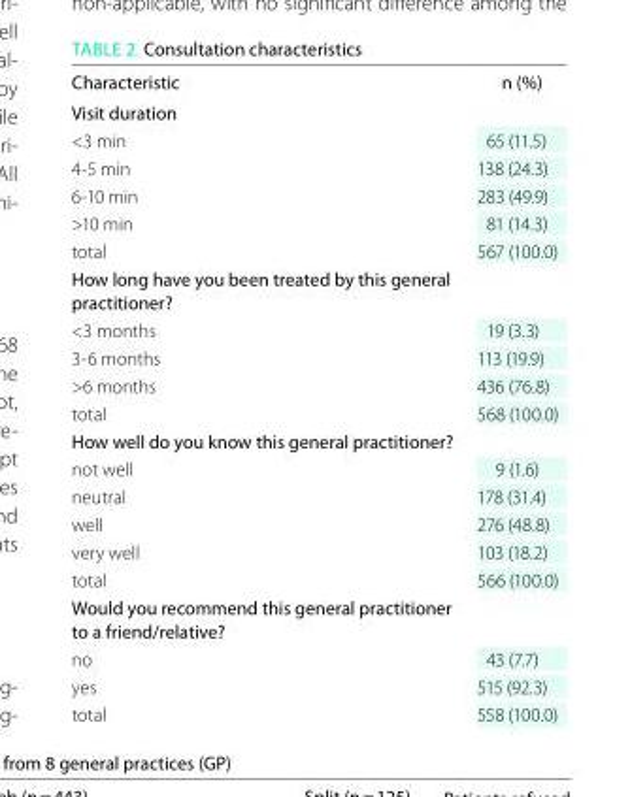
<table><thead><tr><td>Characteristic</td><td>n (%)</td></tr></thead><tbody><tr><td colspan="2">Visit duration</td></tr><tr><td>&lt;3 min</td><td>65 (11.5)</td></tr><tr><td>4-5 min</td><td>138 (24.3)</td></tr><tr><td>6-10 min</td><td>283 (49.9)</td></tr><tr><td>&gt;10 min</td><td>81 (14.3)</td></tr><tr><td>total</td><td>567 (100.0)</td></tr><tr><td colspan="2">How long have you been treated by this general practitioner?</td></tr><tr><td>&lt;3 months</td><td>19 (3.3)</td></tr><tr><td>3-6 months</td><td>113 (19.9)</td></tr><tr><td>&gt;6 months</td><td>436 (76.8)</td></tr><tr><td>total</td><td>568 (100.0)</td></tr><tr><td colspan="2">How well do you know this general practitioner?</td></tr><tr><td>not well</td><td>9 (1.6)</td></tr><tr><td>neutral</td><td>178 (31.4)</td></tr><tr><td>well</td><td>276 (48.8)</td></tr><tr><td>very well</td><td>103 (18.2)</td></tr><tr><td>total</td><td>566 (100.0)</td></tr><tr><td colspan="2">Would you recommend this general practitioner to a friend/relative?</td></tr><tr><td>no</td><td>43 (7.7)</td></tr><tr><td>yes</td><td>515 (92.3)</td></tr><tr><td>total</td><td>558 (100.0)</td></tr></tbody></table>